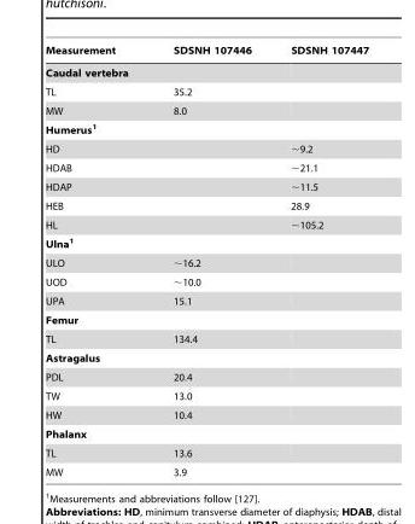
<table><thead><tr><td>Measurement</td><td>SDSNH 107446</td><td>SDSNH 107447</td></tr></thead><tbody><tr><td colspan="3">Caudal vertebra</td></tr><tr><td>TL</td><td>35.2</td><td></td></tr><tr><td>MW</td><td>8.0</td><td></td></tr><tr><td colspan="3">Humerus1</td></tr><tr><td>HD</td><td></td><td>∼9.2</td></tr><tr><td>HDAB</td><td></td><td>∼21.1</td></tr><tr><td>HDAP</td><td></td><td>∼11.5</td></tr><tr><td>HEB</td><td></td><td>28.9</td></tr><tr><td>HL</td><td></td><td>∼105.2</td></tr><tr><td colspan="3">Ulna1</td></tr><tr><td>ULO</td><td>∼16.2</td><td></td></tr><tr><td>UOD</td><td>∼10.0</td><td></td></tr><tr><td>UPA</td><td>15.1</td><td></td></tr><tr><td colspan="3">Femur</td></tr><tr><td>TL</td><td>134.4</td><td></td></tr><tr><td colspan="3">Astragalus</td></tr><tr><td>PDL</td><td>20.4</td><td></td></tr><tr><td>TW</td><td>13.0</td><td></td></tr><tr><td>HW</td><td>10.4</td><td></td></tr><tr><td colspan="3">Phalanx</td></tr><tr><td>TL</td><td>13.6</td><td></td></tr><tr><td>MW</td><td>3.9</td><td></td></tr></tbody></table>